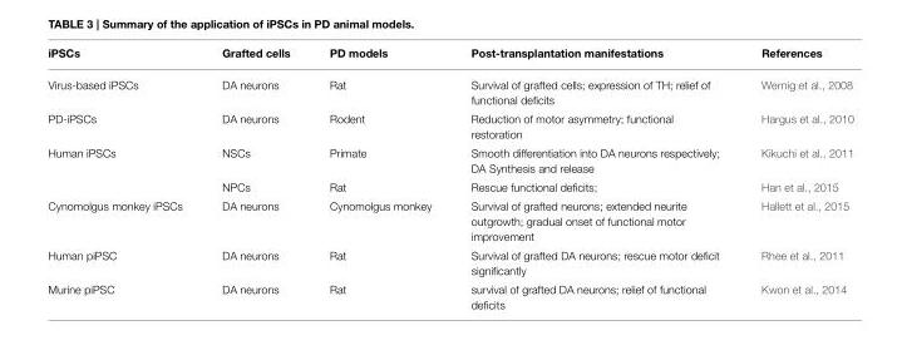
<table><thead><tr><td>iPSCs</td><td>Grafted cells</td><td>PD models</td><td>Post-transplantation manifestations</td><td>References</td></tr></thead><tbody><tr><td>Virus-based iPSCs</td><td>DA neurons</td><td>Rat</td><td>Survival of grafted cells; expression of TH; relief of functional deficits</td><td>Wernig et al., 2008</td></tr><tr><td>PD-iPSCs</td><td>DA neurons</td><td>Rodent</td><td>Reduction of motor asymmetry; functional restoration</td><td>Hargus et al., 2010</td></tr><tr><td rowspan="2">Human iPSCs</td><td>NSCs</td><td>Primate</td><td>Smooth differentiation into DA neurons respectively; DA Synthesis and release</td><td>Kikuchi et al., 2011</td></tr><tr><td>NPCs</td><td>Rat</td><td>Rescue functional deficits;</td><td>Han et al., 2015</td></tr><tr><td>Cynomolgus monkey iPSCs</td><td>DA neurons</td><td>Cynomolgus monkey</td><td>Survival of grafted neurons; extended neurite outgrowth; gradual onset of functional motor improvement</td><td>Hallett et al., 2015</td></tr><tr><td>Human piPSC</td><td>DA neurons</td><td>Rat</td><td>Survival of grafted DA neurons; rescue motor deficit significantly</td><td>Rhee et al., 2011</td></tr><tr><td>Murine piPSC</td><td>DA neurons</td><td>Rat</td><td>survival of grafted DA neurons; relief of functional deficits</td><td>Kwon et al., 2014</td></tr></tbody></table>